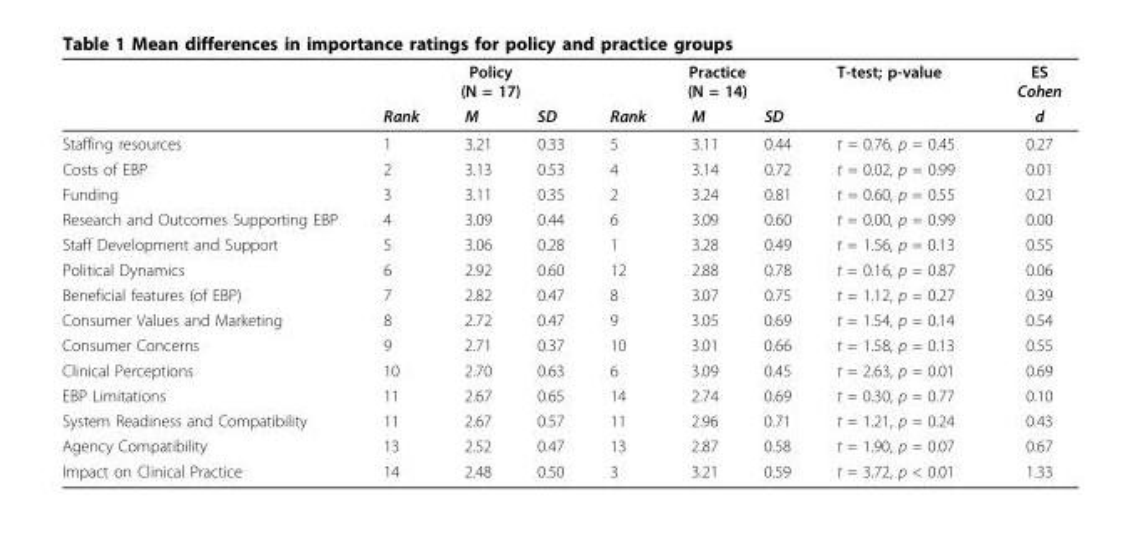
<table><thead><tr><td rowspan="2"></td><td colspan="3">Policy (N = 17)</td><td colspan="3">Practice (N = 14)</td><td rowspan="2">T-test; p-value</td><td rowspan="2">ES Cohen d</td></tr><tr><td>Rank</td><td>M</td><td>SD</td><td>Rank</td><td>M</td><td>SD</td></tr></thead><tbody><tr><td>Staffing resources</td><td>1</td><td>3.21</td><td>0.33</td><td>5</td><td>3.11</td><td>0.44</td><td>t = 0.76, p = 0.45</td><td>0.27</td></tr><tr><td>Costs of EBP</td><td>2</td><td>3.13</td><td>0.53</td><td>4</td><td>3.14</td><td>0.72</td><td>t = 0.02, p = 0.99</td><td>0.01</td></tr><tr><td>Funding</td><td>3</td><td>3.11</td><td>0.35</td><td>2</td><td>3.24</td><td>0.81</td><td>t = 0.60, p = 0.55</td><td>0.21</td></tr><tr><td>Research and Outcomes Supporting EBP</td><td>4</td><td>3.09</td><td>0.44</td><td>6</td><td>3.09</td><td>0.60</td><td>t = 0.00, p = 0.99</td><td>0.00</td></tr><tr><td>Staff Development and Support</td><td>5</td><td>3.06</td><td>0.28</td><td>1</td><td>3.28</td><td>0.49</td><td>t = 1.56, p = 0.13</td><td>0.55</td></tr><tr><td>Political Dynamics</td><td>6</td><td>2.92</td><td>0.60</td><td>12</td><td>2.88</td><td>0.78</td><td>t = 0.16, p = 0.87</td><td>0.06</td></tr><tr><td>Beneficial features (of EBP)</td><td>7</td><td>2.82</td><td>0.47</td><td>8</td><td>3.07</td><td>0.75</td><td>t = 1.12, p = 0.27</td><td>0.39</td></tr><tr><td>Consumer Values and Marketing</td><td>8</td><td>2.72</td><td>0.47</td><td>9</td><td>3.05</td><td>0.69</td><td>t = 1.54, p = 0.14</td><td>0.54</td></tr><tr><td>Consumer Concerns</td><td>9</td><td>2.71</td><td>0.37</td><td>10</td><td>3.01</td><td>0.66</td><td>t = 1.58, p = 0.13</td><td>0.55</td></tr><tr><td>Clinical Perceptions</td><td>10</td><td>2.70</td><td>0.63</td><td>6</td><td>3.09</td><td>0.45</td><td>t = 2.63, p = 0.01</td><td>0.69</td></tr><tr><td>EBP Limitations</td><td>11</td><td>2.67</td><td>0.65</td><td>14</td><td>2.74</td><td>0.69</td><td>t = 0.30, p = 0.77</td><td>0.10</td></tr><tr><td>System Readiness and Compatibility</td><td>11</td><td>2.67</td><td>0.57</td><td>11</td><td>2.96</td><td>0.71</td><td>t = 1.21, p = 0.24</td><td>0.43</td></tr><tr><td>Agency Compatibility</td><td>13</td><td>2.52</td><td>0.47</td><td>13</td><td>2.87</td><td>0.58</td><td>t = 1.90, p = 0.07</td><td>0.67</td></tr><tr><td>Impact on Clinical Practice</td><td>14</td><td>2.48</td><td>0.50</td><td>3</td><td>3.21</td><td>0.59</td><td>t = 3.72, p &lt; 0.01</td><td>1.33</td></tr></tbody></table>